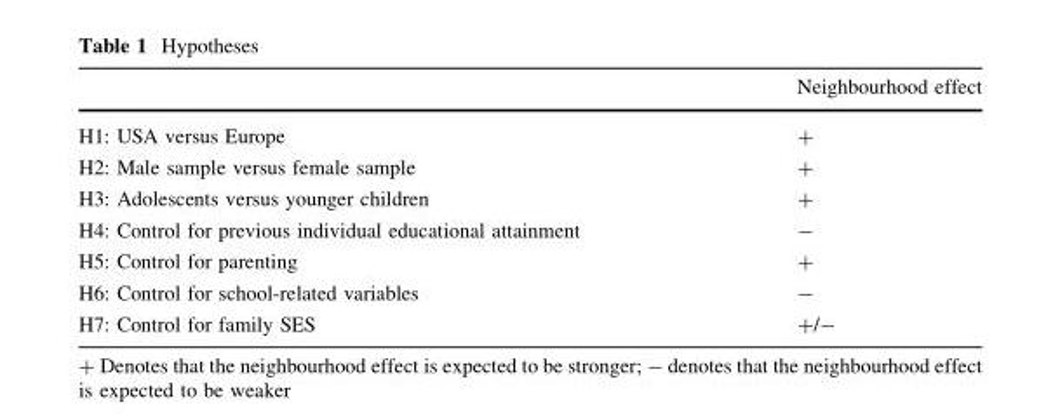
<table><thead><tr><td></td><td>Neighbourhood effect</td></tr></thead><tbody><tr><td>H1: USA versus Europe</td><td>+</td></tr><tr><td>H2: Male sample versus female sample</td><td>+</td></tr><tr><td>H3: Adolescents versus younger children</td><td>+</td></tr><tr><td>H4: Control for previous individual educational attainment</td><td>-</td></tr><tr><td>H5: Control for parenting</td><td>+</td></tr><tr><td>H6: Control for school-related variables</td><td>-</td></tr><tr><td>H7: Control for family SES</td><td>+/-</td></tr></tbody></table>